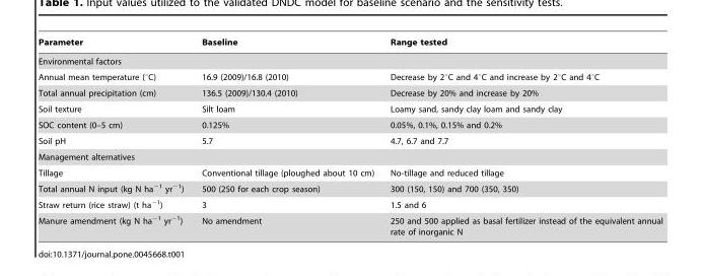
<table><thead><tr><td>Parameter</td><td>Baseline</td><td>Range tested</td></tr></thead><tbody><tr><td colspan="3">Environmental factors</td></tr><tr><td>Annual mean temperature (°C)</td><td>16.9 (2009)/16.8 (2010)</td><td>Decrease by 2°C and 4°C and increase by 2°C and 4°C</td></tr><tr><td>Total annual precipitation (cm)</td><td>136.5 (2009)/130.4 (2010)</td><td>Decrease by 20% and increase by 20%</td></tr><tr><td>Soil texture</td><td>Silt loam</td><td>Loamy sand, sandy clay loam and sandy clay</td></tr><tr><td>SOC content (0–5 cm)</td><td>0.125%</td><td>0.05%, 0.1%, 0.15% and 0.2%</td></tr><tr><td>Soil pH</td><td>5.7</td><td>4.7, 6.7 and 7.7</td></tr><tr><td colspan="3">Management alternatives</td></tr><tr><td>Tillage</td><td>Conventional tillage (ploughed about 10 cm)</td><td>No-tillage and reduced tillage</td></tr><tr><td>Total annual N input (kg N ha<sup>−1</sup> yr<sup>−1</sup>)</td><td>500 (250 for each crop season)</td><td>300 (150, 150) and 700 (350, 350)</td></tr><tr><td>Straw return (rice straw) (t ha<sup>−1</sup>)</td><td>3</td><td>1.5 and 6</td></tr><tr><td>Manure amendment (kg N ha<sup>−1</sup> yr<sup>−1</sup>)</td><td>No amendment</td><td>250 and 500 applied as basal fertilizer instead of the equivalent annual rate of inorganic N</td></tr></tbody></table>